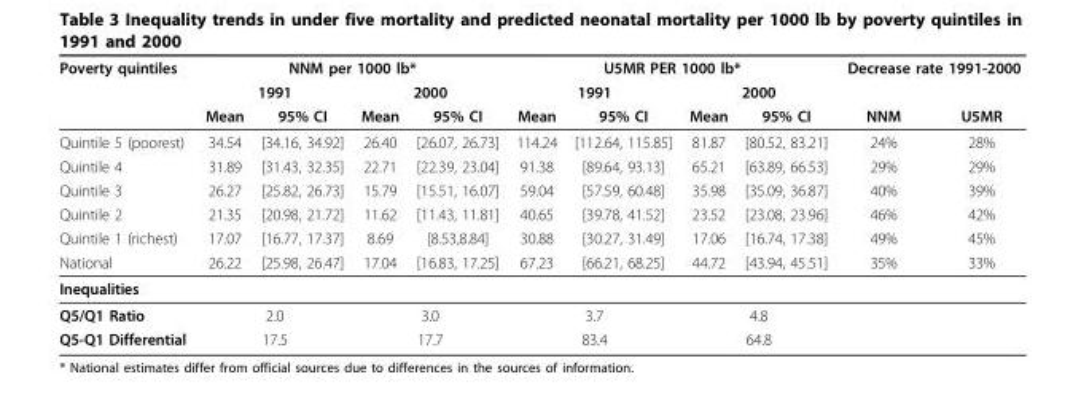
<table><thead><tr><td rowspan="3">Poverty quintiles</td><td colspan="4">NNM per 1000 lb*</td><td colspan="4">U5MR PER 1000 lb*</td><td colspan="2">Decrease rate 1991-2000</td></tr><tr><td colspan="2">1991</td><td colspan="2">2000</td><td colspan="2">1991</td><td colspan="2">2000</td><td rowspan="2">NNM</td><td rowspan="2">U5MR</td></tr><tr><td>Mean</td><td>95% CI</td><td>Mean</td><td>95% CI</td><td>Mean</td><td>95% CI</td><td>Mean</td><td>95% CI</td></tr></thead><tbody><tr><td>Quintile 5 (poorest)</td><td>34.54</td><td>[34.16, 34.92]</td><td>26.40</td><td>[26.07, 26.73]</td><td>114.24</td><td>[112.64, 115.85]</td><td>81.87</td><td>[80.52, 83.21]</td><td>24%</td><td>28%</td></tr><tr><td>Quintile 4</td><td>31.89</td><td>[31.43, 32.35]</td><td>22.71</td><td>[22.39, 23.04]</td><td>91.38</td><td>[89.64, 93.13]</td><td>65.21</td><td>[63.89, 66.53]</td><td>29%</td><td>29%</td></tr><tr><td>Quintile 3</td><td>26.27</td><td>[25.82, 26.73]</td><td>15.79</td><td>[15.51, 16.07]</td><td>59.04</td><td>[57.59, 60.48]</td><td>35.98</td><td>[35.09, 36.87]</td><td>40%</td><td>39%</td></tr><tr><td>Quintile 2</td><td>21.35</td><td>[20.98, 21.72]</td><td>11.62</td><td>[11.43, 11.81]</td><td>40.65</td><td>[39.78, 41.52]</td><td>23.52</td><td>[23.08, 23.96]</td><td>46%</td><td>42%</td></tr><tr><td>Quintile 1 (richest)</td><td>17.07</td><td>[16.77, 17.37]</td><td>8.69</td><td>[8.53,8.84]</td><td>30.88</td><td>[30.27, 31.49]</td><td>17.06</td><td>[16.74, 17.38]</td><td>49%</td><td>45%</td></tr><tr><td>National</td><td>26.22</td><td>[25.98, 26.47]</td><td>17.04</td><td>[16.83, 17.25]</td><td>67.23</td><td>[66.21, 68.25]</td><td>44.72</td><td>[43.94, 45.51]</td><td>35%</td><td>33%</td></tr><tr><td colspan="11">Inequalities</td></tr><tr><td>Q5/Q1 Ratio</td><td colspan="2">2.0</td><td colspan="2">3.0</td><td colspan="2">3.7</td><td colspan="2">4.8</td><td></td><td></td></tr><tr><td>Q5-Q1 Differential</td><td colspan="2">17.5</td><td colspan="2">17.7</td><td colspan="2">83.4</td><td colspan="2">64.8</td><td></td><td></td></tr></tbody></table>